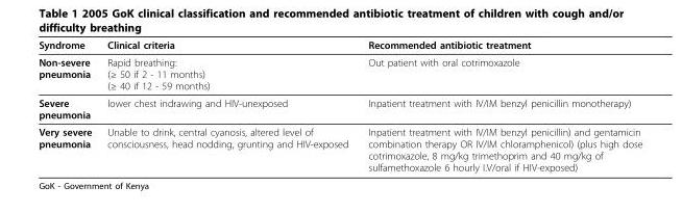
<table><thead><tr><td>Syndrome</td><td>Clinical criteria</td><td>Recommended antibiotic treatment</td></tr></thead><tbody><tr><td>Non-severe pneumonia</td><td>Rapid breathing: (≥ 50 if 2 - 11 months) (≥ 40 if 12 - 59 months)</td><td>Out patient with oral cotrimoxazole</td></tr><tr><td>Severe pneumonia</td><td>lower chest indrawing and HIV-unexposed</td><td>Inpatient treatment with IV/IM benzyl penicillin monotherapy)</td></tr><tr><td>Very severe pneumonia</td><td>Unable to drink, central cyanosis, altered level of consciousness, head nodding, grunting and HIV-exposed</td><td>Inpatient treatment with IV/IM benzyl penicillin) and gentamicin combination therapy OR IV/IM chloramphenicol) (plus high dose cotrimoxazole, 8 mg/kg trimethoprim and 40 mg/kg of sulfamethoxazole 6 hourly I.V/oral if HIV-exposed)</td></tr></tbody></table>